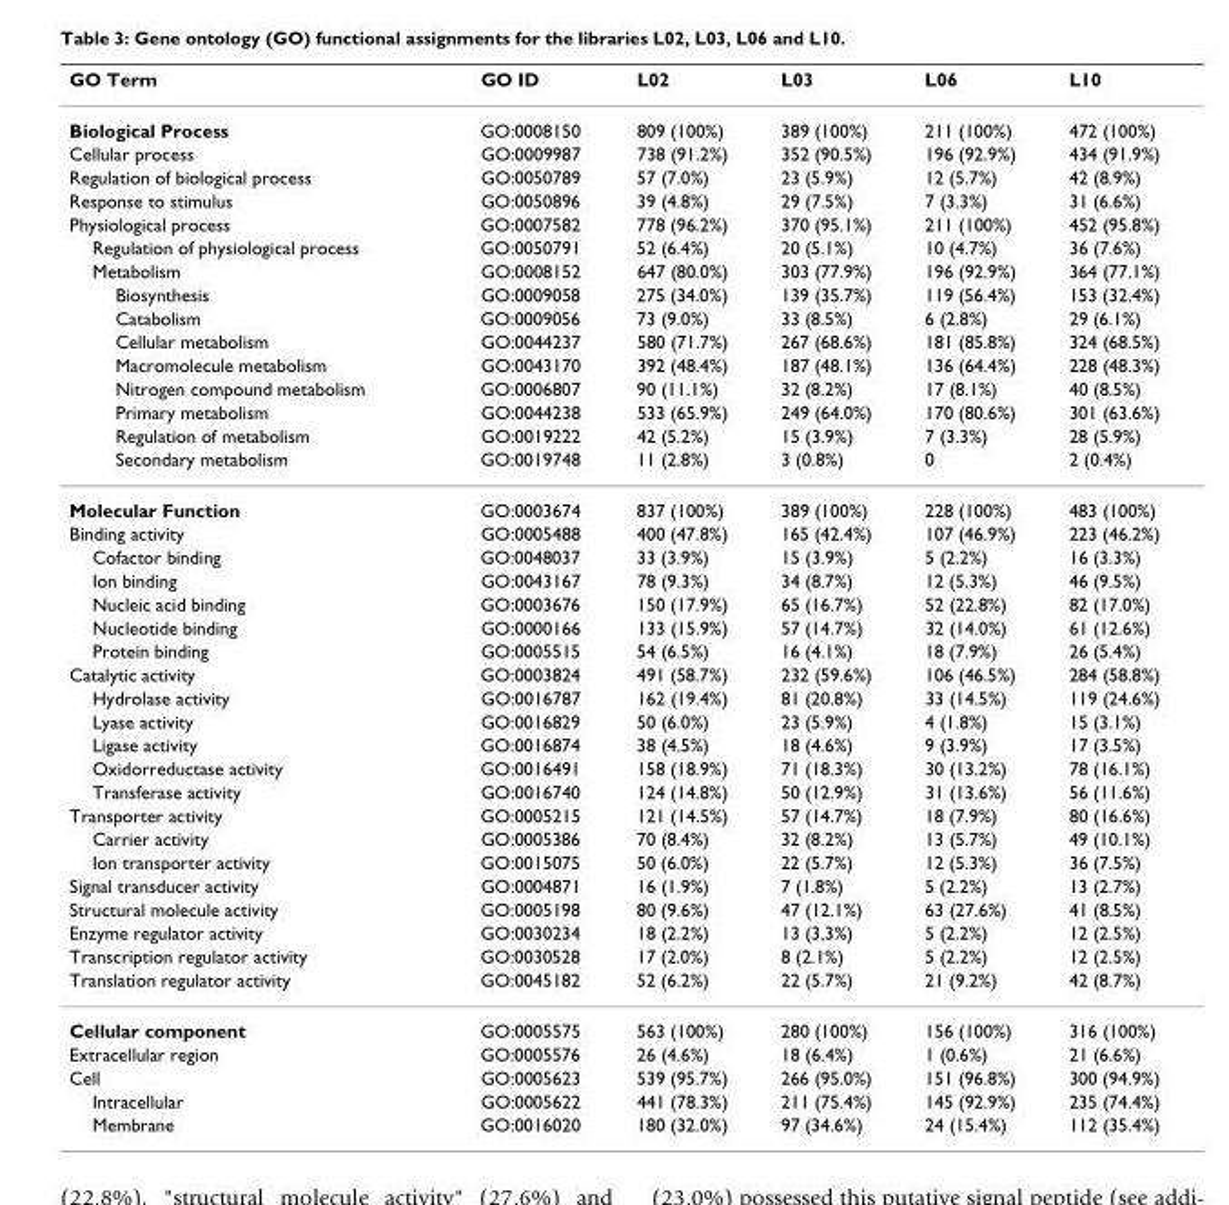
<table><thead><tr><td>GO Term</td><td>GO ID</td><td>L02</td><td>L03</td><td>L06</td><td>L10</td></tr></thead><tbody><tr><td>Biological Process</td><td>GO:0008150</td><td>809 (100%)</td><td>389 (100%)</td><td>211 (100%)</td><td>472 (100%)</td></tr><tr><td>Cellular process</td><td>GO:0009987</td><td>738 (91.2%)</td><td>352 (90.5%)</td><td>196 (92.9%)</td><td>434 (91.9%)</td></tr><tr><td>Regulation of biological process</td><td>GO:0050789</td><td>57 (7.0%)</td><td>23 (5.9%)</td><td>12 (5.7%)</td><td>42 (8.9%)</td></tr><tr><td>Response to stimulus</td><td>GO:0050896</td><td>39 (4.8%)</td><td>29 (7.5%)</td><td>7 (3.3%)</td><td>31 (6.6%)</td></tr><tr><td>Physiological process</td><td>GO:0007582</td><td>778 (96.2%)</td><td>370 (95.1%)</td><td>211 (100%)</td><td>452 (95.8%)</td></tr><tr><td>Regulation of physiological process</td><td>GO:0050791</td><td>52 (6.4%)</td><td>20 (5.1%)</td><td>10 (4.7%)</td><td>36 (7.6%)</td></tr><tr><td>Metabolism</td><td>GO:0008152</td><td>647 (80.0%)</td><td>303 (77.9%)</td><td>196 (92.9%)</td><td>364 (77.1%)</td></tr><tr><td>Biosynthesis</td><td>GO:0009058</td><td>275 (34.0%)</td><td>139 (35.7%)</td><td>119 (56.4%)</td><td>153 (32.4%)</td></tr><tr><td>Catabolism</td><td>GO:0009056</td><td>73 (9.0%)</td><td>33 (8.5%)</td><td>6 (2.8%)</td><td>29 (6.1%)</td></tr><tr><td>Cellular metabolism</td><td>GO:0044237</td><td>580 (71.7%)</td><td>267 (68.6%)</td><td>181 (85.8%)</td><td>324 (68.5%)</td></tr><tr><td>Macromolecule metabolism</td><td>GO:0043170</td><td>392 (48.4%)</td><td>187 (48.1%)</td><td>136 (64.4%)</td><td>228 (48.3%)</td></tr><tr><td>Nitrogen compound metabolism</td><td>GO:0006807</td><td>90 (11.1%)</td><td>32 (8.2%)</td><td>17 (8.1%)</td><td>40 (8.5%)</td></tr><tr><td>Primary metabolism</td><td>GO:0044238</td><td>533 (65.9%)</td><td>249 (64.0%)</td><td>170 (80.6%)</td><td>301 (63.6%)</td></tr><tr><td>Regulation of metabolism</td><td>GO:0019222</td><td>42 (5.2%)</td><td>15 (3.9%)</td><td>7 (3.3%)</td><td>28 (5.9%)</td></tr><tr><td>Secondary metabolism</td><td>GO:0019748</td><td>11 (2.8%)</td><td>3 (0.8%)</td><td>0</td><td>2 (0.4%)</td></tr><tr><td>Molecular Function</td><td>GO:0003674</td><td>837 (100%)</td><td>389 (100%)</td><td>228 (100%)</td><td>483 (100%)</td></tr><tr><td>Binding activity</td><td>GO:0005488</td><td>400 (47.8%)</td><td>165 (42.4%)</td><td>107 (46.9%)</td><td>223 (46.2%)</td></tr><tr><td>Cofactor binding</td><td>GO:0048037</td><td>33 (3.9%)</td><td>15 (3.9%)</td><td>5 (2.2%)</td><td>16 (3.3%)</td></tr><tr><td>Ion binding</td><td>GO:0043167</td><td>78 (9.3%)</td><td>34 (8.7%)</td><td>12 (5.3%)</td><td>46 (9.5%)</td></tr><tr><td>Nucleic acid binding</td><td>GO:0003676</td><td>150 (17.9%)</td><td>65 (16.7%)</td><td>52 (22.8%)</td><td>82 (17.0%)</td></tr><tr><td>Nucleotide binding</td><td>GO:0000166</td><td>133 (15.9%)</td><td>57 (14.7%)</td><td>32 (14.0%)</td><td>61 (12.6%)</td></tr><tr><td>Protein binding</td><td>GO:0005515</td><td>54 (6.5%)</td><td>16 (4.1%)</td><td>18 (7.9%)</td><td>26 (5.4%)</td></tr><tr><td>Catalytic activity</td><td>GO:0003824</td><td>491 (58.7%)</td><td>232 (59.6%)</td><td>106 (46.5%)</td><td>284 (58.8%)</td></tr><tr><td>Hydrolase activity</td><td>GO:0016787</td><td>162 (19.4%)</td><td>81 (20.8%)</td><td>33 (14.5%)</td><td>119 (24.6%)</td></tr><tr><td>Lyase activity</td><td>GO:0016829</td><td>50 (6.0%)</td><td>23 (5.9%)</td><td>4 (1.8%)</td><td>15 (3.1%)</td></tr><tr><td>Ligase activity</td><td>GO:0016874</td><td>38 (4.5%)</td><td>18 (4.6%)</td><td>9 (3.9%)</td><td>17 (3.5%)</td></tr><tr><td>Oxidorreductase activity</td><td>GO:0016491</td><td>158 (18.9%)</td><td>71 (18.3%)</td><td>30 (13.2%)</td><td>78 (16.1%)</td></tr><tr><td>Transferase activity</td><td>GO:0016740</td><td>124 (14.8%)</td><td>50 (12.9%)</td><td>31 (13.6%)</td><td>56 (11.6%)</td></tr><tr><td>Transporter activity</td><td>GO:0005215</td><td>121 (14.5%)</td><td>57 (14.7%)</td><td>18 (7.9%)</td><td>80 (16.6%)</td></tr><tr><td>Carrier activity</td><td>GO:0005386</td><td>70 (8.4%)</td><td>32 (8.2%)</td><td>13 (5.7%)</td><td>49 (10.1%)</td></tr><tr><td>Ion transporter activity</td><td>GO:0015075</td><td>50 (6.0%)</td><td>22 (5.7%)</td><td>12 (5.3%)</td><td>36 (7.5%)</td></tr><tr><td>Signal transducer activity</td><td>GO:0004871</td><td>16 (1.9%)</td><td>7 (1.8%)</td><td>5 (2.2%)</td><td>13 (2.7%)</td></tr><tr><td>Structural molecule activity</td><td>GO:0005198</td><td>80 (9.6%)</td><td>47 (12.1%)</td><td>63 (27.6%)</td><td>41 (8.5%)</td></tr><tr><td>Enzyme regulator activity</td><td>GO:0030234</td><td>18 (2.2%)</td><td>13 (3,3%)</td><td>5 (2.2%)</td><td>12 (2.5%)</td></tr><tr><td>Transcription regulator activity</td><td>GO:0030528</td><td>17 (2.0%)</td><td>8 (2.1%)</td><td>5 (2.2%)</td><td>12 (2.5%)</td></tr><tr><td>Translation regulator activity</td><td>GO:0045182</td><td>52 (6.2%)</td><td>22 (5.7%)</td><td>21 (9.2%)</td><td>42 (8.7%)</td></tr><tr><td>Cellular component</td><td>GO:0005575</td><td>563 (100%)</td><td>280 (100%)</td><td>156 (100%)</td><td>316 (100%)</td></tr><tr><td>Extracellular region</td><td>GO:0005576</td><td>26 (4.6%)</td><td>18 (6.4%)</td><td>1 (0.6%)</td><td>21 (6.6%)</td></tr><tr><td>Cell</td><td>GO:0005623</td><td>539 (95.7%)</td><td>266 (95.0%)</td><td>151 (96.8%)</td><td>300 (94.9%)</td></tr><tr><td>Intracellular</td><td>GO:0005622</td><td>441 (78.3%)</td><td>211 (75.4%)</td><td>145 (92.9%)</td><td>235 (74.4%)</td></tr><tr><td>Membrane</td><td>GO:0016020</td><td>180 (32.0%)</td><td>97 (34.6%)</td><td>24 (15.4%)</td><td>112 (35.4%)</td></tr></tbody></table>